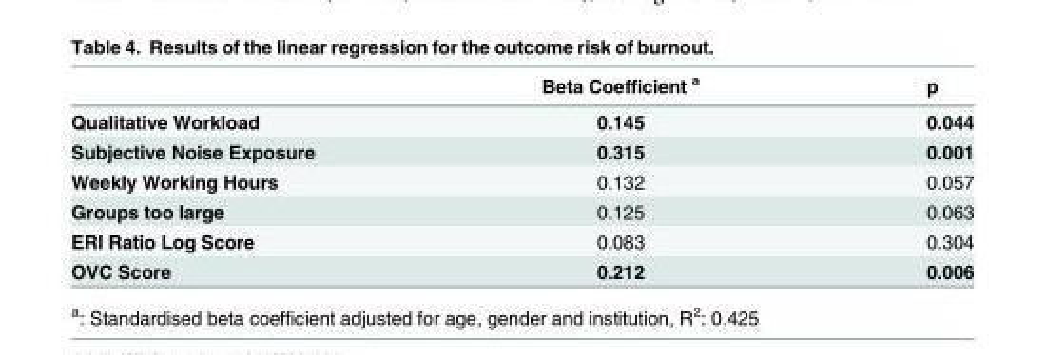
<table><thead><tr><td></td><td>Beta Coefficient <sup>a</sup></td><td>p</td></tr></thead><tbody><tr><td>Qualitative Workload</td><td>0.145</td><td>0.044</td></tr><tr><td>Subjective Noise Exposure</td><td>0.315</td><td>0.001</td></tr><tr><td>Weekly Working Hours</td><td>0.132</td><td>0.057</td></tr><tr><td>Groups too large</td><td>0.125</td><td>0.063</td></tr><tr><td>ERI Ratio Log Score</td><td>0.083</td><td>0.304</td></tr><tr><td>OVC Score</td><td>0.212</td><td>0.006</td></tr></tbody></table>